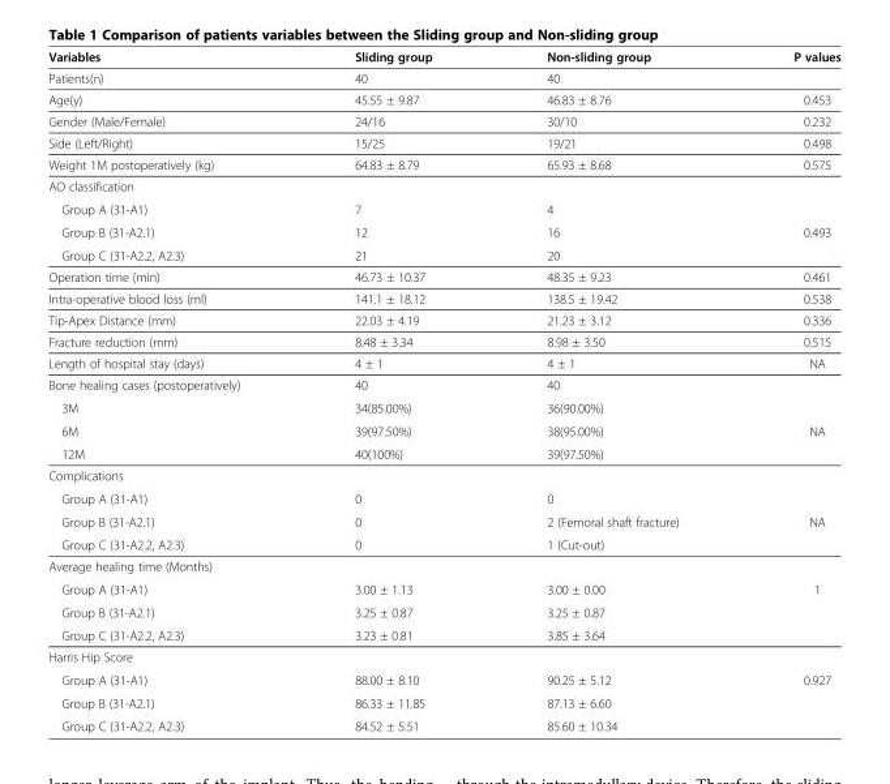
<table><thead><tr><td>Variables</td><td>Sliding group</td><td>Non-sliding group</td><td>P values</td></tr></thead><tbody><tr><td>Patients(n)</td><td>40</td><td>40</td><td></td></tr><tr><td>Age(y)</td><td>45.55 ± 9.87</td><td>46.83 ± 8.76</td><td>0.453</td></tr><tr><td>Gender (Male/Female)</td><td>24/16</td><td>30/10</td><td>0.232</td></tr><tr><td>Side (Left/Right)</td><td>15/25</td><td>19/21</td><td>0.498</td></tr><tr><td>Weight 1M postoperatively (kg)</td><td>64.83 ± 8.79</td><td>65.93 ± 8.68</td><td>0.575</td></tr><tr><td colspan="4">AO classification</td></tr><tr><td>Group A (31-A1)</td><td>7</td><td>4</td><td></td></tr><tr><td>Group B (31-A2.1)</td><td>12</td><td>16</td><td>0.493</td></tr><tr><td>Group C (31-A2.2, A2.3)</td><td>21</td><td>20</td><td></td></tr><tr><td>Operation time (min)</td><td>46.73 ± 10.37</td><td>48.35 ± 9.23</td><td>0.461</td></tr><tr><td>Intra-operative blood loss (ml)</td><td>141.1 ± 18.12</td><td>138.5 ± 19.42</td><td>0.538</td></tr><tr><td>Tip-Apex Distance (mm)</td><td>22.03 ± 4.19</td><td>21.23 ± 3.12</td><td>0.336</td></tr><tr><td>Fracture reduction (mm)</td><td>8.48 ± 3.34</td><td>8.98 ± 3.50</td><td>0.515</td></tr><tr><td>Length of hospital stay (days)</td><td>4 ± 1</td><td>4 ± 1</td><td>NA</td></tr><tr><td>Bone healing cases (postoperatively)</td><td>40</td><td>40</td><td></td></tr><tr><td>3M</td><td>34(85.00%)</td><td>36(90.00%)</td><td></td></tr><tr><td>6M</td><td>39(97.50%)</td><td>38(95.00%)</td><td>NA</td></tr><tr><td>12M</td><td>40(100%)</td><td>39(97.50%)</td><td></td></tr><tr><td colspan="4">Complications</td></tr><tr><td>Group A (31-A1)</td><td>0</td><td>0</td><td></td></tr><tr><td>Group B (31-A2.1)</td><td>0</td><td>2 (Femoral shaft fracture)</td><td>NA</td></tr><tr><td>Group C (31-A2.2, A2.3)</td><td>0</td><td>1 (Cut-out)</td><td></td></tr><tr><td colspan="4">Average healing time (Months)</td></tr><tr><td>Group A (31-A1)</td><td>3.00 ± 1.13</td><td>3.00 ± 0.00</td><td>1</td></tr><tr><td>Group B (31-A2.1)</td><td>3.25 ± 0.87</td><td>3.25 ± 0.87</td><td></td></tr><tr><td>Group C (31-A2.2, A2.3)</td><td>3.23 ± 0.81</td><td>3.85 ± 3.64</td><td></td></tr><tr><td colspan="4">Harris Hip Score</td></tr><tr><td>Group A (31-A1)</td><td>88.00 ± 8.10</td><td>90.25 ± 5.12</td><td>0.927</td></tr><tr><td>Group B (31-A2.1)</td><td>86.33 ± 11.85</td><td>87.13 ± 6.60</td><td></td></tr><tr><td>Group C (31-A2.2, A2.3)</td><td>84.52 ± 5.51</td><td>85.60 ± 10.34</td><td></td></tr></tbody></table>